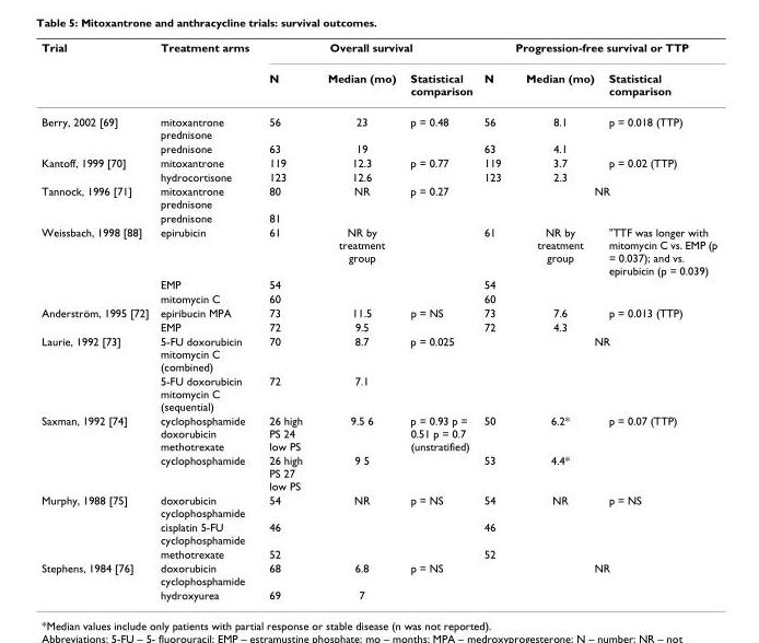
<table><thead><tr><td rowspan="2">Trial</td><td rowspan="2">Treatment arms</td><td colspan="3">Overall survival</td><td colspan="3">Progression-free survival or TTP</td></tr><tr><td>N</td><td>Median (mo)</td><td>Statistical comparison</td><td>N</td><td>Median (mo)</td><td>Statistical comparison</td></tr></thead><tbody><tr><td rowspan="2">Berry, 2002 [69]</td><td>mitoxantrone prednisone</td><td>56</td><td>23</td><td>p = 0.48</td><td>56</td><td>8.1</td><td>p = 0.018 (TTP)</td></tr><tr><td>prednisone</td><td>63</td><td>19</td><td></td><td>63</td><td>4.1</td><td></td></tr><tr><td rowspan="2">Kantoff, 1999 [70]</td><td>mitoxantrone</td><td>119</td><td>12.3</td><td>p = 0.77</td><td>119</td><td>3.7</td><td>p = 0.02 (TTP)</td></tr><tr><td>hydrocortisone</td><td>123</td><td>12.6</td><td></td><td>123</td><td>2.3</td><td></td></tr><tr><td rowspan="2">Tannock, 1996 [71]</td><td>mitoxantrone prednisone</td><td>80</td><td>NR</td><td>p = 0.27</td><td colspan="3">NR</td></tr><tr><td>prednisone</td><td>81</td><td></td><td></td><td></td><td></td><td></td></tr><tr><td rowspan="3">Weissbach, 1998 [88]</td><td>epirubicin</td><td>61</td><td>NR by treatment group</td><td></td><td>61</td><td>NR by treatment group</td><td>&quot;TTF was longer with mitomycin C vs. EMP (p = 0.037); and vs. epirubicin (p = 0.039)</td></tr><tr><td>EMP</td><td>54</td><td></td><td></td><td>54</td><td></td><td></td></tr><tr><td>mitomycin C</td><td>60</td><td></td><td></td><td>60</td><td></td><td></td></tr><tr><td rowspan="2">Anderström, 1995 [72]</td><td>epiribucin MPA</td><td>73</td><td>11.5</td><td>p = NS</td><td>73</td><td>7.6</td><td>p = 0.013 (TTP)</td></tr><tr><td>EMP</td><td>72</td><td>9.5</td><td></td><td>72</td><td>4.3</td><td></td></tr><tr><td rowspan="2">Laurie, 1992 [73]</td><td>5-FU doxorubicin mitomycin C (combined)</td><td>70</td><td>8.7</td><td>p = 0.025</td><td colspan="3">NR</td></tr><tr><td>5-FU doxorubicin mitomycin C (sequential)</td><td>72</td><td>7.1</td><td></td><td></td><td></td><td></td></tr><tr><td rowspan="2">Saxman, 1992 [74]</td><td>cyclophosphamide doxorubicin methotrexate</td><td>26 high PS 24 low PS</td><td>9.5 6</td><td>p = 0.93 p = 0.51 p = 0.7 (unstratified)</td><td>50</td><td>6.2*</td><td>p = 0.07 (TTP)</td></tr><tr><td>cyclophosphamide</td><td>26 high PS 27 low PS</td><td>9 5</td><td></td><td>53</td><td>4.4*</td><td></td></tr><tr><td rowspan="3">Murphy, 1988 [75]</td><td>doxorubicin cyclophosphamide</td><td>54</td><td>NR</td><td>p = NS</td><td>54</td><td>NR</td><td>p = NS</td></tr><tr><td>cisplatin 5-FU cyclophosphamide</td><td>46</td><td></td><td></td><td>46</td><td></td><td></td></tr><tr><td>methotrexate</td><td>52</td><td></td><td></td><td>52</td><td></td><td></td></tr><tr><td rowspan="2">Stephens, 1984 [76]</td><td>doxorubicin cyclophosphamide</td><td>68</td><td>6.8</td><td>p = NS</td><td colspan="3">NR</td></tr><tr><td>hydroxyurea</td><td>69</td><td>7</td><td></td><td></td><td></td><td></td></tr></tbody></table>